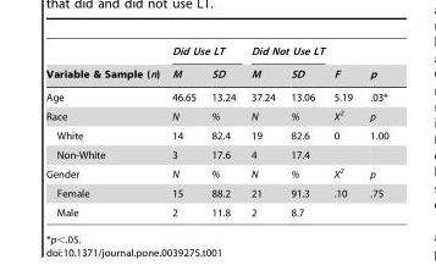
<table><thead><tr><td rowspan="2">Variable &amp; Sample (n)</td><td colspan="2">Did Use LT</td><td colspan="2">Did Not Use LT</td><td rowspan="2">F</td><td rowspan="2">p</td></tr><tr><td>M</td><td>SD</td><td>M</td><td>SD</td></tr></thead><tbody><tr><td>Age</td><td>46.65</td><td>13.24</td><td>37.24</td><td>13.06</td><td>5.19</td><td>.03*</td></tr><tr><td>Race</td><td>N</td><td>%</td><td>N</td><td>%</td><td>X<sup>2</sup></td><td>p</td></tr><tr><td>White</td><td>14</td><td>82.4</td><td>19</td><td>82.6</td><td>0</td><td>1.00</td></tr><tr><td>Non-White</td><td>3</td><td>17.6</td><td>4</td><td>17.4</td><td></td><td></td></tr><tr><td>Gender</td><td>N</td><td>%</td><td>N</td><td>%</td><td>X<sup>2</sup></td><td>p</td></tr><tr><td>Female</td><td>15</td><td>88.2</td><td>21</td><td>91.3</td><td>.10</td><td>.75</td></tr><tr><td>Male</td><td>2</td><td>11.8</td><td>2</td><td>8.7</td><td></td><td></td></tr></tbody></table>